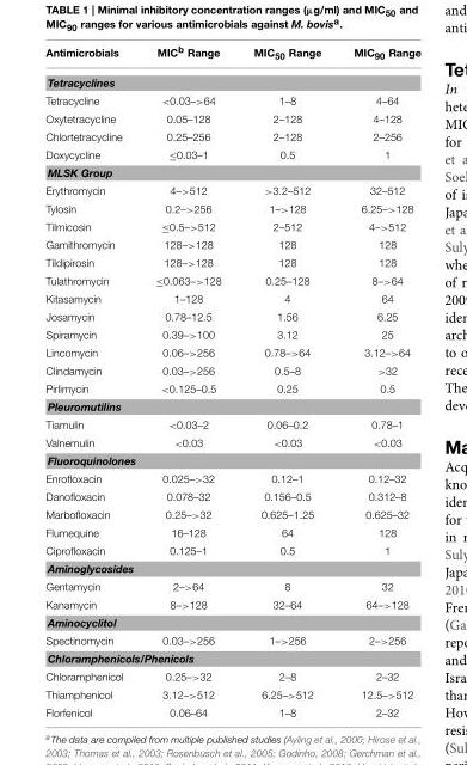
<table><thead><tr><td>Antimicrobials</td><td>MIC<sup>b</sup> Range</td><td>MIC<sub>50</sub> Range</td><td>MIC<sub>90</sub> Range</td></tr></thead><tbody><tr><td colspan="4">Tetracyclines</td></tr><tr><td>Tetracycline</td><td>&lt;0.03–&gt;64</td><td>1–8</td><td>4–64</td></tr><tr><td>Oxytetracycline</td><td>0.05–128</td><td>2–128</td><td>4–128</td></tr><tr><td>Chlortetracycline</td><td>0.25–256</td><td>2–128</td><td>2–256</td></tr><tr><td>Doxycycline</td><td>≤0.03–1</td><td>0.5</td><td>1</td></tr><tr><td colspan="4">MLSK Group</td></tr><tr><td>Erythromycin</td><td>4–&gt;512</td><td>&gt;3.2–512</td><td>32–512</td></tr><tr><td>Tylosin</td><td>0.2–&gt;256</td><td>1–&gt;128</td><td>6.25–&gt;128</td></tr><tr><td>Tilmicosin</td><td>≤0.5–&gt;512</td><td>2–512</td><td>4–&gt;512</td></tr><tr><td>Gamithromycin</td><td>128–&gt;128</td><td>128</td><td>128</td></tr><tr><td>Tildipirosin</td><td>128–&gt;128</td><td>128</td><td>128</td></tr><tr><td>Tulathromycin</td><td>≤0.063–&gt;128</td><td>0.25–128</td><td>8–&gt;64</td></tr><tr><td>Kitasamycin</td><td>1–128</td><td>4</td><td>64</td></tr><tr><td>Josamycin</td><td>0.78–12.5</td><td>1.56</td><td>6.25</td></tr><tr><td>Spiramycin</td><td>0.39–&gt;100</td><td>3.12</td><td>25</td></tr><tr><td>Lincomycin</td><td>0.06–&gt;256</td><td>0.78–&gt;64</td><td>3.12–&gt;64</td></tr><tr><td>Clindamycin</td><td>0.03–&gt;256</td><td>0.5–8</td><td>&gt;32</td></tr><tr><td>Pirlimycin</td><td>&lt;0.125–0.5</td><td>0.25</td><td>0.5</td></tr><tr><td colspan="4">Pleuromutilins</td></tr><tr><td>Tiamulin</td><td>&lt;0.03–2</td><td>0.06–0.2</td><td>0.78–1</td></tr><tr><td>Valnemulin</td><td>&lt;0.03</td><td>&lt;0.03</td><td>&lt;0.03</td></tr><tr><td colspan="4">Fluoroquinolones</td></tr><tr><td>Enrofloxacin</td><td>0.025–&gt;32</td><td>0.12–1</td><td>0.12–32</td></tr><tr><td>Danofloxacin</td><td>0.078–32</td><td>0.156–0.5</td><td>0.312–8</td></tr><tr><td>Marbofloxacin</td><td>0.25–&gt;32</td><td>0.625–1.25</td><td>0.625–32</td></tr><tr><td>Flumequine</td><td>16–128</td><td>64</td><td>128</td></tr><tr><td>Ciprofloxacin</td><td>0.125–1</td><td>0.5</td><td>1</td></tr><tr><td colspan="4">Aminoglycosides</td></tr><tr><td>Gentamycin</td><td>2–&gt;64</td><td>8</td><td>32</td></tr><tr><td>Kanamycin</td><td>8–&gt;128</td><td>32–64</td><td>64–&gt;128</td></tr><tr><td colspan="4">Aminocyclitol</td></tr><tr><td>Spectinomycin</td><td>0.03–&gt;256</td><td>1–&gt;256</td><td>2–&gt;256</td></tr><tr><td colspan="4">Chloramphenicols/Phenicols</td></tr><tr><td>Chloramphenicol</td><td>0.25–&gt;32</td><td>2–8</td><td>2–32</td></tr><tr><td>Thiamphenicol</td><td>3.12–&gt;512</td><td>6.25–&gt;512</td><td>12.5–&gt;512</td></tr><tr><td>Florfenicol</td><td>0.06–64</td><td>1–8</td><td>2–32</td></tr></tbody></table>